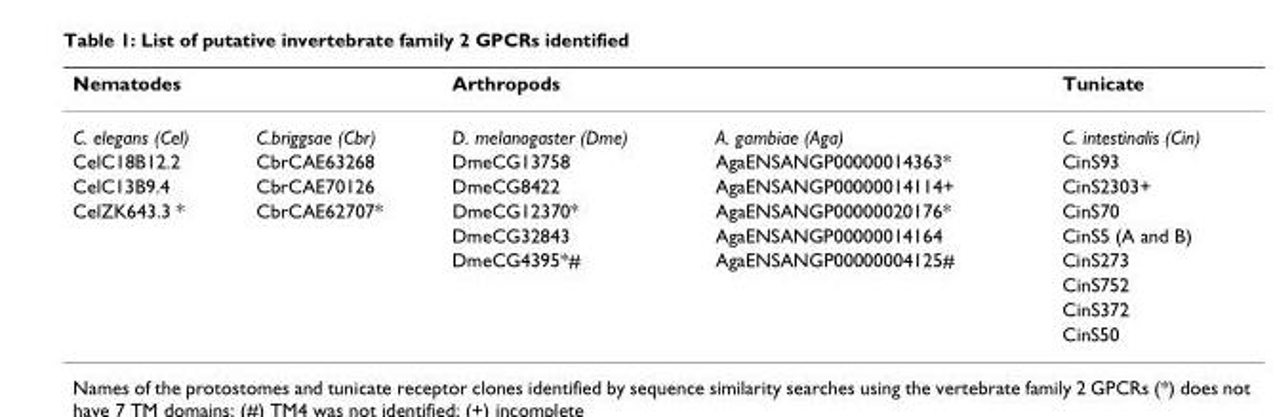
<table><thead><tr><td>Nematodes</td><td></td><td>Arthropods</td><td></td><td>Tunicate</td></tr></thead><tbody><tr><td>C. elegans (Cel)</td><td>C.briggsae (Cbr)</td><td>D. melanogaster (Dme)</td><td>A. gambiae (Aga)</td><td>C. intestinalis (Cin)</td></tr><tr><td>CelC18B12.2</td><td>CbrCAE63268</td><td>DmeCG13758</td><td>AgaENSANGP00000014363*</td><td>CinS93</td></tr><tr><td>CelC13B9.4</td><td>CbrCAE70126</td><td>DmeCG8422</td><td>AgaENSANGP00000014114+</td><td>CinS2303+</td></tr><tr><td rowspan="6">CelZK643.3 *</td><td>CbrCAE62707*</td><td>DmeCG12370*</td><td>AgaENSANGP00000020176*</td><td>CinS70</td></tr><tr><td></td><td>DmeCG32843</td><td>AgaENSANGP00000014164</td><td>CinS5 (A and B)</td></tr><tr><td></td><td>DmeCG4395*#</td><td>AgaENSANGP00000004125#</td><td>CinS273</td></tr><tr><td></td><td></td><td></td><td>CinS752</td></tr><tr><td></td><td></td><td></td><td>CinS372</td></tr><tr><td></td><td></td><td></td><td>CinS50</td></tr></tbody></table>